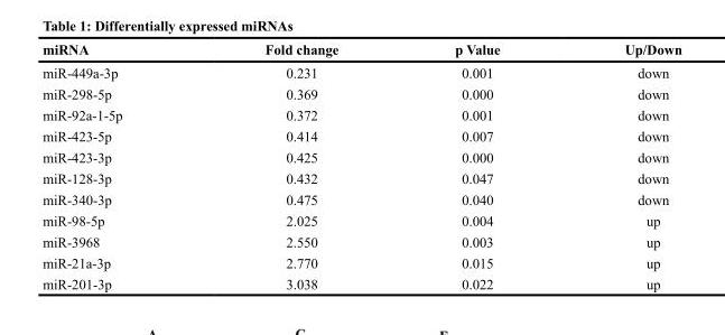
<table><thead><tr><td>miRNA</td><td>Fold change</td><td>p Value</td><td>Up/Down</td></tr></thead><tbody><tr><td>miR-449a-3p</td><td>0.231</td><td>0.001</td><td>down</td></tr><tr><td>miR-298-5p</td><td>0.369</td><td>0.000</td><td>down</td></tr><tr><td>miR-92a-1-5p</td><td>0.372</td><td>0.001</td><td>down</td></tr><tr><td>miR-423-5p</td><td>0.414</td><td>0.007</td><td>down</td></tr><tr><td>miR-423-3p</td><td>0.425</td><td>0.000</td><td>down</td></tr><tr><td>miR-128-3p</td><td>0.432</td><td>0.047</td><td>down</td></tr><tr><td>miR-340-3p</td><td>0.475</td><td>0.040</td><td>down</td></tr><tr><td>miR-98-5p</td><td>2.025</td><td>0.004</td><td>up</td></tr><tr><td>miR-3968</td><td>2.550</td><td>0.003</td><td>up</td></tr><tr><td>miR-21a-3p</td><td>2.770</td><td>0.015</td><td>up</td></tr><tr><td>miR-201-3p</td><td>3.038</td><td>0.022</td><td>up</td></tr></tbody></table>